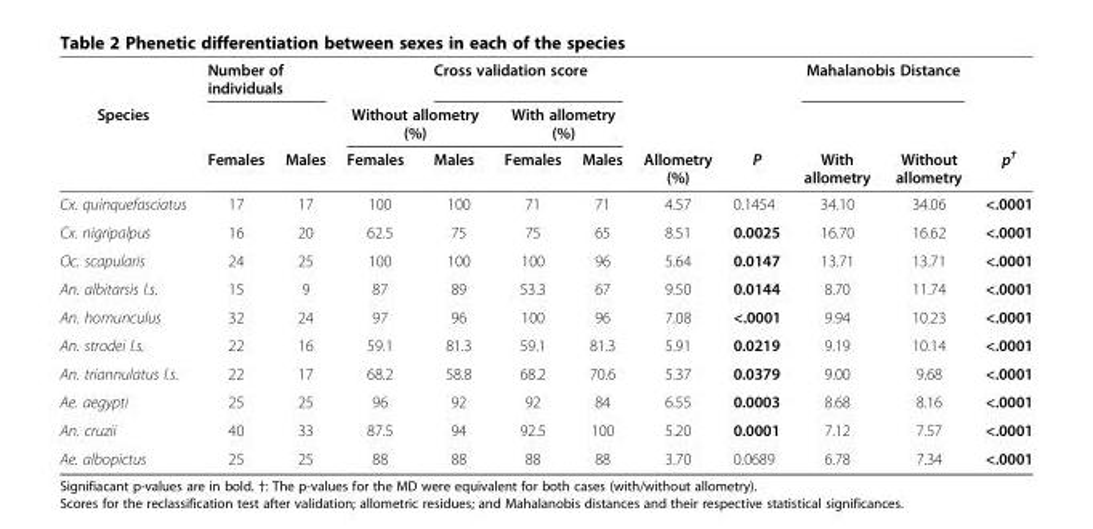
<table><thead><tr><td rowspan="3">Species</td><td colspan="2">Number of individuals</td><td></td><td colspan="3">Cross validation score</td><td rowspan="3">Allometry (%)</td><td rowspan="3">P</td><td colspan="2">Mahalanobis Distance</td><td rowspan="3">p<sup>†</sup></td></tr><tr><td rowspan="2">Females</td><td rowspan="2">Males</td><td colspan="2">Without allometry (%)</td><td colspan="2">With allometry (%)</td><td rowspan="2">With allometry</td><td rowspan="2">Without allometry</td></tr><tr><td>Females</td><td>Males</td><td>Females</td><td>Males</td></tr></thead><tbody><tr><td>Cx. quinquefasciatus</td><td>17</td><td>17</td><td>100</td><td>100</td><td>71</td><td>71</td><td>4.57</td><td>0.1454</td><td>34.10</td><td>34.06</td><td>&lt;.0001</td></tr><tr><td>Cx. nigripalpus</td><td>16</td><td>20</td><td>62.5</td><td>75</td><td>75</td><td>65</td><td>8.51</td><td>0.0025</td><td>16.70</td><td>16.62</td><td>&lt;.0001</td></tr><tr><td>Oc. scapularis</td><td>24</td><td>25</td><td>100</td><td>100</td><td>100</td><td>96</td><td>5.64</td><td>0.0147</td><td>13.71</td><td>13.71</td><td>&lt;.0001</td></tr><tr><td>An. albitarsis l.s.</td><td>15</td><td>9</td><td>87</td><td>89</td><td>53.3</td><td>67</td><td>9.50</td><td>0.0144</td><td>8.70</td><td>11.74</td><td>&lt;.0001</td></tr><tr><td>An. homunculus</td><td>32</td><td>24</td><td>97</td><td>96</td><td>100</td><td>96</td><td>7.08</td><td>&lt;.0001</td><td>9.94</td><td>10.23</td><td>&lt;.0001</td></tr><tr><td>An. strodei l.s.</td><td>22</td><td>16</td><td>59.1</td><td>81.3</td><td>59.1</td><td>81.3</td><td>5.91</td><td>0.0219</td><td>9.19</td><td>10.14</td><td>&lt;.0001</td></tr><tr><td>An. triannulatus l.s.</td><td>22</td><td>17</td><td>68.2</td><td>58.8</td><td>68.2</td><td>70.6</td><td>5.37</td><td>0.0379</td><td>9.00</td><td>9.68</td><td>&lt;.0001</td></tr><tr><td>Ae. aegypti</td><td>25</td><td>25</td><td>96</td><td>92</td><td>92</td><td>84</td><td>6.55</td><td>0.0003</td><td>8.68</td><td>8.16</td><td>&lt;.0001</td></tr><tr><td>An. cruzii</td><td>40</td><td>33</td><td>87.5</td><td>94</td><td>92.5</td><td>100</td><td>5.20</td><td>0.0001</td><td>7.12</td><td>7.57</td><td>&lt;.0001</td></tr><tr><td>Ae. albopictus</td><td>25</td><td>25</td><td>88</td><td>88</td><td>88</td><td>88</td><td>3.70</td><td>0.0689</td><td>6.78</td><td>7.34</td><td>&lt;.0001</td></tr></tbody></table>